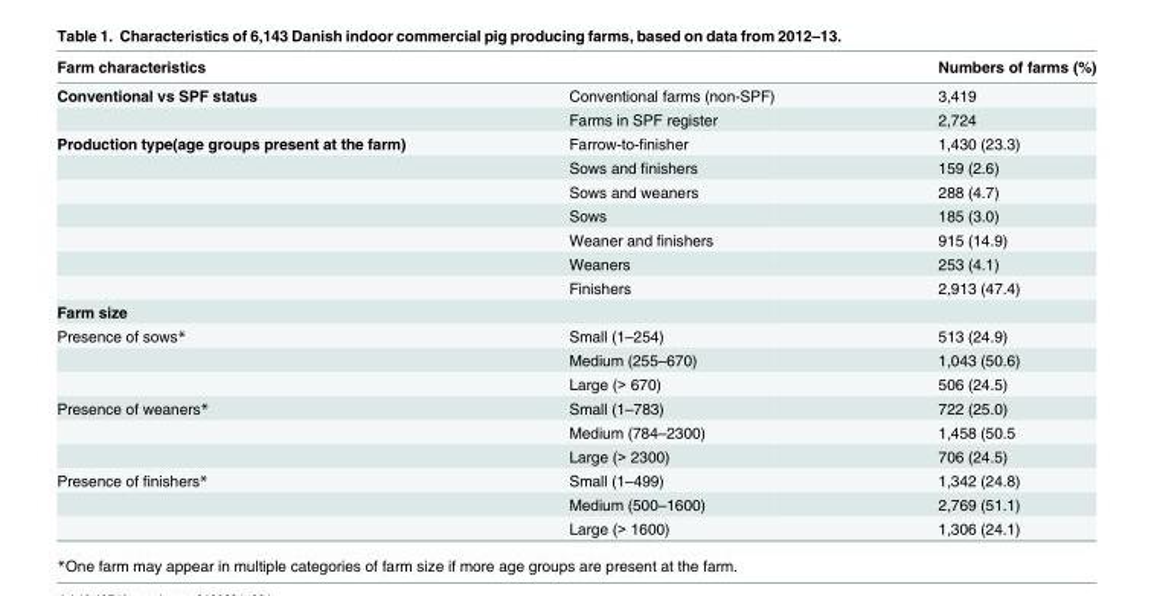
<table><thead><tr><td>Farm characteristics</td><td></td><td>Numbers of farms (%)</td></tr></thead><tbody><tr><td rowspan="2">Conventional vs SPF status</td><td>Conventional farms (non-SPF)</td><td>3,419</td></tr><tr><td>Farms in SPF register</td><td>2,724</td></tr><tr><td rowspan="7">Production type(age groups present at the farm)</td><td>Farrow-to-finisher</td><td>1,430 (23.3)</td></tr><tr><td>Sows and finishers</td><td>159 (2.6)</td></tr><tr><td>Sows and weaners</td><td>288 (4.7)</td></tr><tr><td>Sows</td><td>185 (3.0)</td></tr><tr><td>Weaner and finishers</td><td>915 (14.9)</td></tr><tr><td>Weaners</td><td>253 (4.1)</td></tr><tr><td>Finishers</td><td>2,913 (47.4)</td></tr><tr><td colspan="3">Farm size</td></tr><tr><td rowspan="3">Presence of sows*</td><td>Small (1–254)</td><td>513 (24.9)</td></tr><tr><td>Medium (255–670)</td><td>1,043 (50.6)</td></tr><tr><td>Large (&gt; 670)</td><td>506 (24.5)</td></tr><tr><td rowspan="3">Presence of weaners*</td><td>Small (1–783)</td><td>722 (25.0)</td></tr><tr><td>Medium (784–2300)</td><td>1,458 (50.5</td></tr><tr><td>Large (&gt; 2300)</td><td>706 (24.5)</td></tr><tr><td rowspan="3">Presence of finishers*</td><td>Small (1–499)</td><td>1,342 (24.8)</td></tr><tr><td>Medium (500–1600)</td><td>2,769 (51.1)</td></tr><tr><td>Large (&gt; 1600)</td><td>1,306 (24.1)</td></tr></tbody></table>